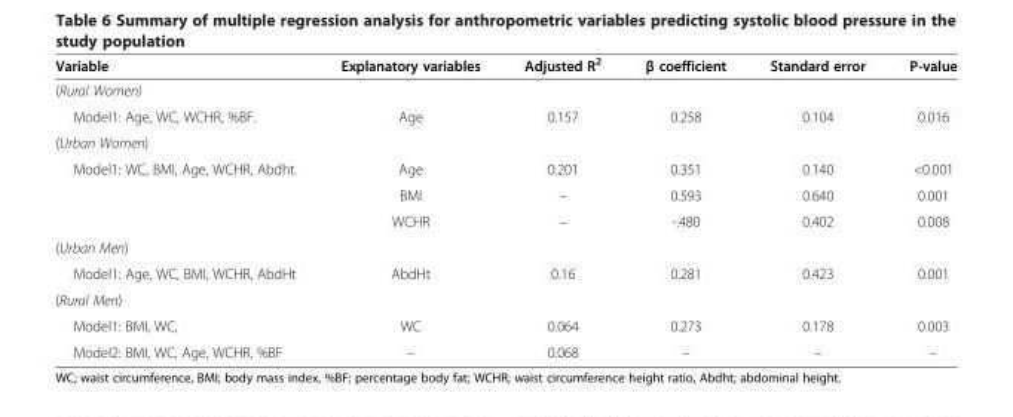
<table><thead><tr><td>Variable</td><td>Explanatory variables</td><td>Adjusted R<sup>2</sup></td><td>β coefficient</td><td>Standard error</td><td>P-value</td></tr></thead><tbody><tr><td colspan="6">(Rural Women)</td></tr><tr><td>Model1: Age, WC, WCHR, %BF.</td><td>Age</td><td>0.157</td><td>0.258</td><td>0.104</td><td>0.016</td></tr><tr><td colspan="6">(Urban Women)</td></tr><tr><td rowspan="3">Model1: WC, BMI, Age, WCHR, Abdht.</td><td>Age</td><td>0.201</td><td>0.351</td><td>0.140</td><td>&lt;0.001</td></tr><tr><td>BMI</td><td>–</td><td>0.593</td><td>0.640</td><td>0.001</td></tr><tr><td>WCHR</td><td>–</td><td>-.480</td><td>0.402</td><td>0.008</td></tr><tr><td colspan="6">(Urban Men)</td></tr><tr><td>Model1: Age, WC, BMI, WCHR, AbdHt</td><td>AbdHt</td><td>0.16</td><td>0.281</td><td>0.423</td><td>0.001</td></tr><tr><td colspan="6">(Rural Men)</td></tr><tr><td>Model1: BMI, WC,</td><td>WC</td><td>0.064</td><td>0.273</td><td>0.178</td><td>0.003</td></tr><tr><td>Model2: BMI, WC, Age, WCHR, %BF</td><td>–</td><td>0.068</td><td>–</td><td>–</td><td>–</td></tr></tbody></table>